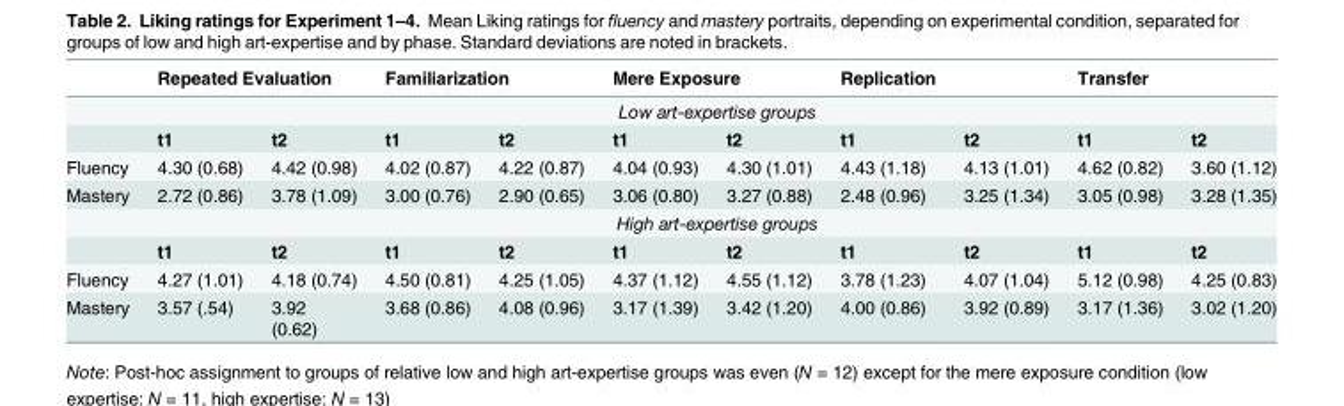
<table><thead><tr><td rowspan="3"></td><td colspan="2">Repeated Evaluation</td><td colspan="2">Familiarization</td><td colspan="2">Mere Exposure</td><td>Replication</td><td></td><td>Transfer</td><td></td></tr><tr><td colspan="10">Low art-expertise groups</td></tr><tr><td>t1</td><td>t2</td><td>t1</td><td>t2</td><td>t1</td><td>t2</td><td>t1</td><td>t2</td><td>t1</td><td>t2</td></tr></thead><tbody><tr><td>Fluency</td><td>4.30 (0.68)</td><td>4.42 (0.98)</td><td>4.02 (0.87)</td><td>4.22 (0.87)</td><td>4.04 (0.93)</td><td>4.30 (1.01)</td><td>4.43 (1.18)</td><td>4.13 (1.01)</td><td>4.62 (0.82)</td><td>3.60 (1.12)</td></tr><tr><td rowspan="3">Mastery</td><td>2.72 (0.86)</td><td>3.78 (1.09)</td><td>3.00 (0.76)</td><td>2.90 (0.65)</td><td>3.06 (0.80)</td><td>3.27 (0.88)</td><td>2.48 (0.96)</td><td>3.25 (1.34)</td><td>3.05 (0.98)</td><td>3.28 (1.35)</td></tr><tr><td colspan="10">High art-expertise groups</td></tr><tr><td>t1</td><td>t2</td><td>t1</td><td>t2</td><td>t1</td><td>t2</td><td>t1</td><td>t2</td><td>t1</td><td>t2</td></tr><tr><td>Fluency</td><td>4.27 (1.01)</td><td>4.18 (0.74)</td><td>4.50 (0.81)</td><td>4.25 (1.05)</td><td>4.37 (1.12)</td><td>4.55 (1.12)</td><td>3.78 (1.23)</td><td>4.07 (1.04)</td><td>5.12 (0.98)</td><td>4.25 (0.83)</td></tr><tr><td>Mastery</td><td>3.57 (.54)</td><td>3.92 (0.62)</td><td>3.68 (0.86)</td><td>4.08 (0.96)</td><td>3.17 (1.39)</td><td>3.42 (1.20)</td><td>4.00 (0.86)</td><td>3.92 (0.89)</td><td>3.17 (1.36)</td><td>3.02 (1.20)</td></tr></tbody></table>